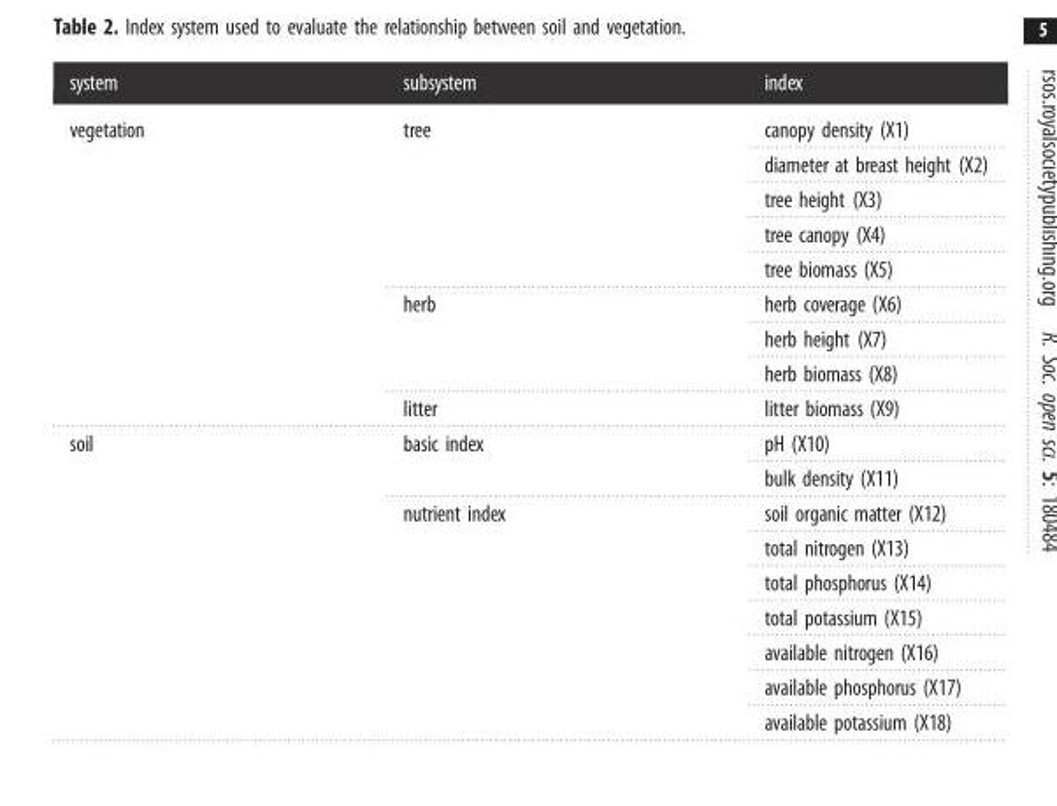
<table><thead><tr><td>system</td><td>subsystem</td><td>index</td></tr></thead><tbody><tr><td rowspan="9">vegetation</td><td rowspan="5">tree</td><td>canopy density (X1)</td></tr><tr><td>diameter at breast height (X2)</td></tr><tr><td>tree height (X3)</td></tr><tr><td>tree canopy (X4)</td></tr><tr><td>tree biomass (X5)</td></tr><tr><td rowspan="3">herb</td><td>herb coverage (X6)</td></tr><tr><td>herb height (X7)</td></tr><tr><td>herb biomass (X8)</td></tr><tr><td>litter</td><td>litter biomass (X9)</td></tr><tr><td rowspan="9">soil</td><td rowspan="2">basic index</td><td>pH (X10)</td></tr><tr><td>bulk density (X11)</td></tr><tr><td rowspan="7">nutrient index</td><td>soil organic matter (X12)</td></tr><tr><td>total nitrogen (X13)</td></tr><tr><td>total phosphorus (X14)</td></tr><tr><td>total potassium (X15)</td></tr><tr><td>available nitrogen (X16)</td></tr><tr><td>available phosphorus (X17)</td></tr><tr><td>available potassium (X18)</td></tr></tbody></table>